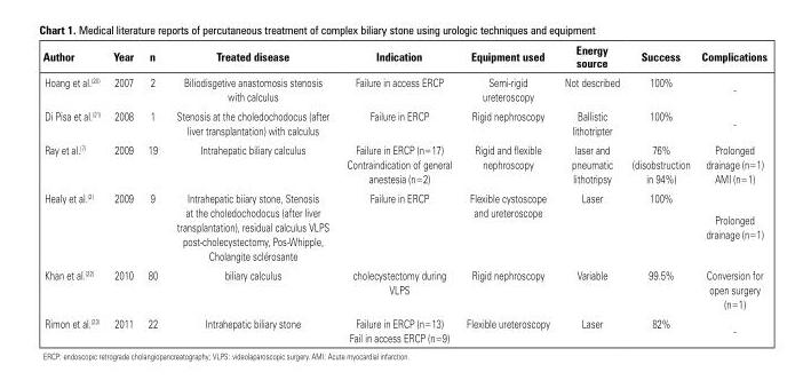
<table><thead><tr><td>author</td><td>Year</td><td>n</td><td>treated disease</td><td>Indication</td><td>equipment used</td><td>energy source</td><td>success</td><td>complications</td></tr></thead><tbody><tr><td>Hoang et al.<sup>(20)</sup></td><td>2007</td><td>2</td><td>Biliodisgetive anastomosis stenosis with calculus</td><td>Failure in access ERCP</td><td>Semi-rigid ureteroscopy</td><td>Not described</td><td>100%</td><td>-</td></tr><tr><td>Di Pisa et al.<sup>(21)</sup></td><td>2008</td><td>1</td><td>Stenosis at the choledochodocus (after liver transplantation) with calculus</td><td>Failure in ERCP</td><td>Rigid nephroscopy</td><td>Ballistic lithotripter</td><td>100%</td><td>-</td></tr><tr><td>Ray et al.<sup>(7)</sup></td><td>2009</td><td>19</td><td>Intrahepatic biliary calculus</td><td>Failure in ERCP (n=17) Contraindication of general anestesia (n=2)</td><td>Rigid and flexible nephroscopy</td><td>laser and pneumatic lithotripsy</td><td>76% (disobstruction in 94%)</td><td>Prolonged drainage (n=1) AMI (n=1)</td></tr><tr><td>Healy et al.<sup>(2)</sup></td><td>2009</td><td>9</td><td>Intrahepatic biiary stone, Stenosis at the choledochodocus (after liver transplantation), residual calculus VLPS post-cholecystectomy, Pos-Whipple, Cholangite sclérosante</td><td>Failure in ERCP</td><td>Flexible cystoscope and ureteroscope</td><td>Laser</td><td>100%</td><td>Prolonged drainage (n=1)</td></tr><tr><td>Khan et al.<sup>(22)</sup></td><td>2010</td><td>80</td><td>biliary calculus</td><td>cholecystectomy during VLPS</td><td>Rigid nephroscopy</td><td>Variable</td><td>99.5%</td><td>Conversion for open surgery (n=1)</td></tr><tr><td>Rimon et al.<sup>(23)</sup></td><td>2011</td><td>22</td><td>Intrahepatic biliary stone</td><td>Failure in ERCP (n=13) Fail in access ERCP (n=9)</td><td>Flexible ureteroscopy</td><td>Laser</td><td>82%</td><td>-</td></tr></tbody></table>